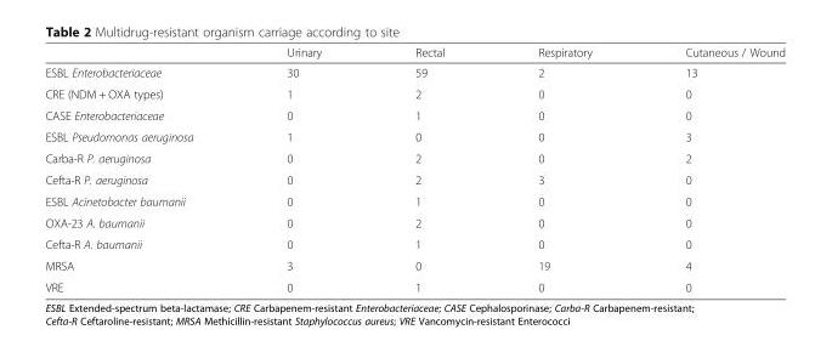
<table><thead><tr><td></td><td>Urinary</td><td>Rectal</td><td>Respiratory</td><td>Cutaneous / Wound</td></tr></thead><tbody><tr><td>ESBL Enterobacteriaceae</td><td>30</td><td>59</td><td>2</td><td>13</td></tr><tr><td>CRE (NDM + OXA types)</td><td>1</td><td>2</td><td>0</td><td>0</td></tr><tr><td>CASE Enterobacteriaceae</td><td>0</td><td>1</td><td>0</td><td>0</td></tr><tr><td>ESBL Pseudomonas aeruginosa</td><td>1</td><td>0</td><td>0</td><td>3</td></tr><tr><td>Carba-R P. aeruginosa</td><td>0</td><td>2</td><td>0</td><td>2</td></tr><tr><td>Cefta-R P. aeruginosa</td><td>0</td><td>2</td><td>3</td><td>0</td></tr><tr><td>ESBL Acinetobacter baumanii</td><td>0</td><td>1</td><td>0</td><td>0</td></tr><tr><td>OXA-23 A. baumanii</td><td>0</td><td>2</td><td>0</td><td>0</td></tr><tr><td>Cefta-R A. baumanii</td><td>0</td><td>1</td><td>0</td><td>0</td></tr><tr><td>MRSA</td><td>3</td><td>0</td><td>19</td><td>4</td></tr><tr><td>VRE</td><td>0</td><td>1</td><td>0</td><td>0</td></tr></tbody></table>